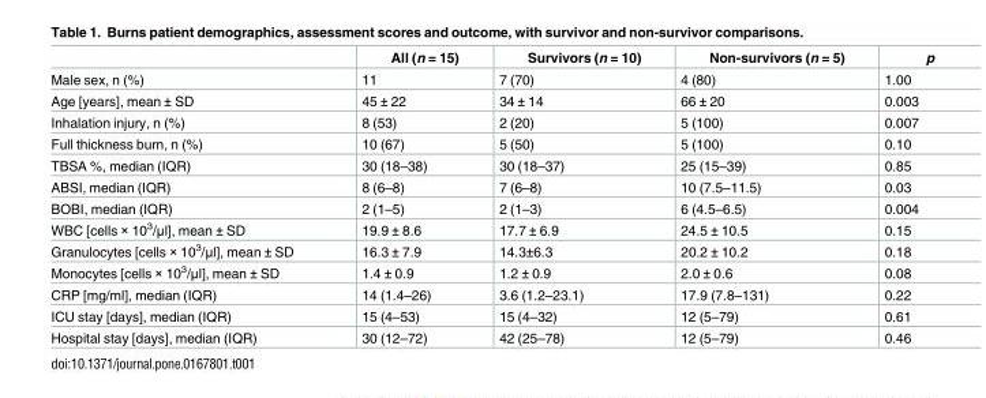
<table><thead><tr><td></td><td>All (n = 15)</td><td>Survivors (n = 10)</td><td>Non-survivors (n = 5)</td><td>p</td></tr></thead><tbody><tr><td>Male sex, n (%)</td><td>11</td><td>7 (70)</td><td>4 (80)</td><td>1.00</td></tr><tr><td>Age [years], mean ± SD</td><td>45 ± 22</td><td>34 ± 14</td><td>66 ± 20</td><td>0.003</td></tr><tr><td>Inhalation injury, n (%)</td><td>8 (53)</td><td>2 (20)</td><td>5 (100)</td><td>0.007</td></tr><tr><td>Full thickness burn, n (%)</td><td>10 (67)</td><td>5 (50)</td><td>5 (100)</td><td>0.10</td></tr><tr><td>TBSA %, median (IQR)</td><td>30 (18–38)</td><td>30 (18–37)</td><td>25 (15–39)</td><td>0.85</td></tr><tr><td>ABSI, median (IQR)</td><td>8 (6–8)</td><td>7 (6–8)</td><td>10 (7.5–11.5)</td><td>0.03</td></tr><tr><td>BOBI, median (IQR)</td><td>2 (1–5)</td><td>2 (1–3)</td><td>6 (4.5–6.5)</td><td>0.004</td></tr><tr><td>WBC [cells × 10<sup>3</sup>/μl], mean ± SD</td><td>19.9 ± 8.6</td><td>17.7 ± 6.9</td><td>24.5 ± 10.5</td><td>0.15</td></tr><tr><td>Granulocytes [cells × 10<sup>3</sup>/μl], mean ± SD</td><td>16.3 ± 7.9</td><td>14.3±6.3</td><td>20.2 ± 10.2</td><td>0.18</td></tr><tr><td>Monocytes [cells × 10<sup>3</sup>/μl], mean ± SD</td><td>1.4 ± 0.9</td><td>1.2 ± 0.9</td><td>2.0 ± 0.6</td><td>0.08</td></tr><tr><td>CRP [mg/ml], median (IQR)</td><td>14 (1.4–26)</td><td>3.6 (1.2–23.1)</td><td>17.9 (7.8–131)</td><td>0.22</td></tr><tr><td>ICU stay [days], median (IQR)</td><td>15 (4–53)</td><td>15 (4–32)</td><td>12 (5–79)</td><td>0.61</td></tr><tr><td>Hospital stay [days], median (IQR)</td><td>30 (12–72)</td><td>42 (25–78)</td><td>12 (5–79)</td><td>0.46</td></tr></tbody></table>